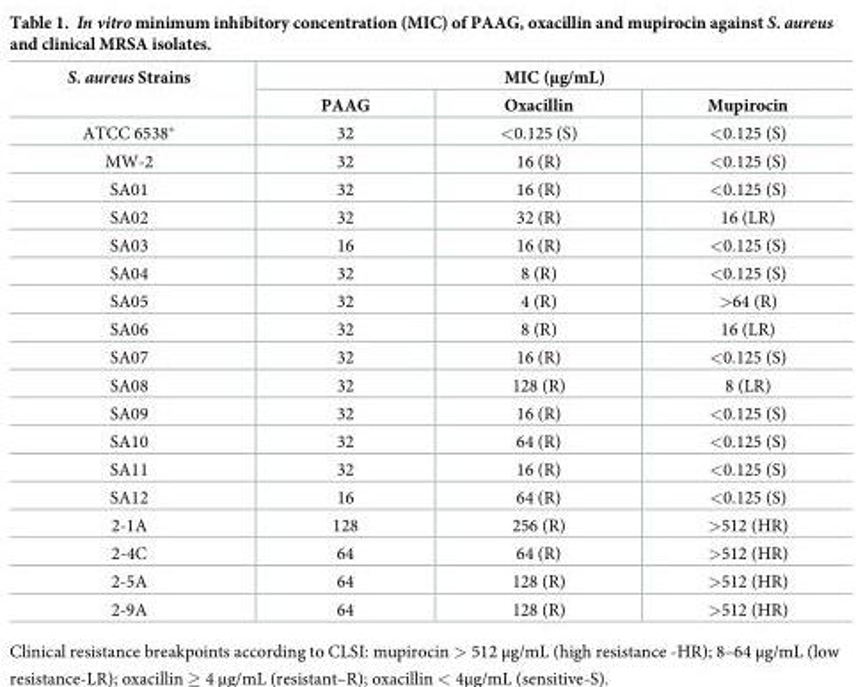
<table><thead><tr><td rowspan="2">S. aureus Strains</td><td colspan="3">MIC (μg/mL)</td></tr><tr><td>PAAG</td><td>Oxacillin</td><td>Mupirocin</td></tr></thead><tbody><tr><td>ATCC 6538*</td><td>32</td><td>&lt;0.125 (S)</td><td>&lt;0.125 (S)</td></tr><tr><td>MW-2</td><td>32</td><td>16 (R)</td><td>&lt;0.125 (S)</td></tr><tr><td>SA01</td><td>32</td><td>16 (R)</td><td>&lt;0.125 (S)</td></tr><tr><td>SA02</td><td>32</td><td>32 (R)</td><td>16 (LR)</td></tr><tr><td>SA03</td><td>16</td><td>16 (R)</td><td>&lt;0.125 (S)</td></tr><tr><td>SA04</td><td>32</td><td>8 (R)</td><td>&lt;0.125 (S)</td></tr><tr><td>SA05</td><td>32</td><td>4 (R)</td><td>&gt;64 (R)</td></tr><tr><td>SA06</td><td>32</td><td>8 (R)</td><td>16 (LR)</td></tr><tr><td>SA07</td><td>32</td><td>16 (R)</td><td>&lt;0.125 (S)</td></tr><tr><td>SA08</td><td>32</td><td>128 (R)</td><td>8 (LR)</td></tr><tr><td>SA09</td><td>32</td><td>16 (R)</td><td>&lt;0.125 (S)</td></tr><tr><td>SA10</td><td>32</td><td>64 (R)</td><td>&lt;0.125 (S)</td></tr><tr><td>SA11</td><td>32</td><td>16 (R)</td><td>&lt;0.125 (S)</td></tr><tr><td>SA12</td><td>16</td><td>64 (R)</td><td>&lt;0.125 (S)</td></tr><tr><td>2-1A</td><td>128</td><td>256 (R)</td><td>&gt;512 (HR)</td></tr><tr><td>2-4C</td><td>64</td><td>64 (R)</td><td>&gt;512 (HR)</td></tr><tr><td>2-5A</td><td>64</td><td>128 (R)</td><td>&gt;512 (HR)</td></tr><tr><td>2-9A</td><td>64</td><td>128 (R)</td><td>&gt;512 (HR)</td></tr></tbody></table>